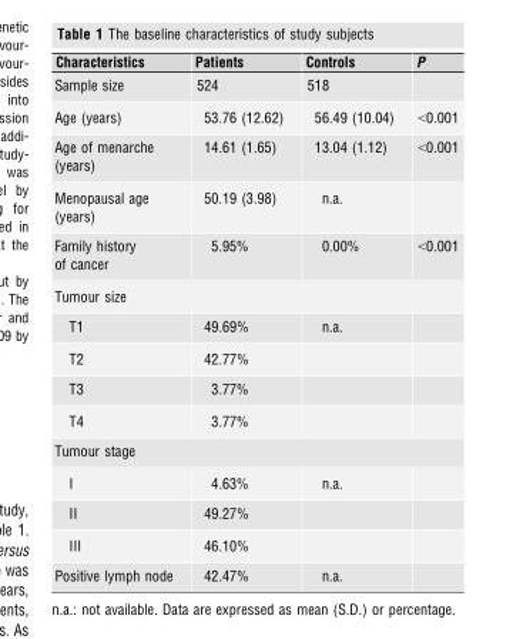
<table><thead><tr><td>Characteristics</td><td>Patients</td><td>Controls</td><td>P</td></tr></thead><tbody><tr><td>Sample size</td><td>524</td><td>518</td><td></td></tr><tr><td>Age (years)</td><td>53.76 (12.62)</td><td>56.49 (10.04)</td><td>&lt;0.001</td></tr><tr><td>Age of menarche (years)</td><td>14.61 (1.65)</td><td>13.04 (1.12)</td><td>&lt;0.001</td></tr><tr><td>Menopausal age (years)</td><td>50.19 (3.98)</td><td>n.a.</td><td></td></tr><tr><td>Family history of cancer</td><td>5.95%</td><td>0.00%</td><td>&lt;0.001</td></tr><tr><td colspan="4">Tumour size</td></tr><tr><td>T1</td><td>49.69%</td><td>n.a.</td><td></td></tr><tr><td>T2</td><td>42.77%</td><td></td><td></td></tr><tr><td>T3</td><td>3.77%</td><td></td><td></td></tr><tr><td>T4</td><td>3.77%</td><td></td><td></td></tr><tr><td colspan="4">Tumour stage</td></tr><tr><td>I</td><td>4.63%</td><td>n.a.</td><td></td></tr><tr><td>II</td><td>49.27%</td><td></td><td></td></tr><tr><td>III</td><td>46.10%</td><td></td><td></td></tr><tr><td>Positive lymph node</td><td>42.47%</td><td>n.a.</td><td></td></tr></tbody></table>